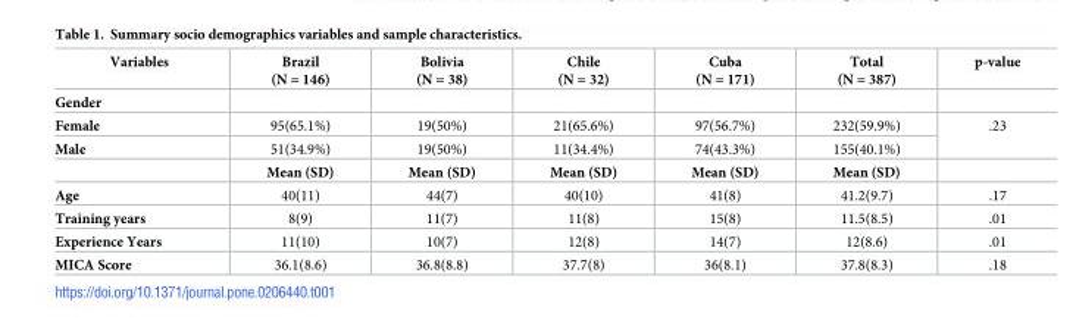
<table><thead><tr><td>Variables</td><td>Brazil (N = 146)</td><td>Bolivia (N = 38)</td><td>Chile (N = 32)</td><td>Cuba (N = 171)</td><td>Total (N = 387)</td><td>p-value</td></tr></thead><tbody><tr><td colspan="7">Gender</td></tr><tr><td>Female</td><td>95(65.1%)</td><td>19(50%)</td><td>21(65.6%)</td><td>97(56.7%)</td><td>232(59.9%)</td><td rowspan="2">.23</td></tr><tr><td rowspan="2">Male</td><td>51(34.9%)</td><td>19(50%)</td><td>11(34.4%)</td><td>74(43.3%)</td><td>155(40.1%)</td></tr><tr><td>Mean (SD)</td><td>Mean (SD)</td><td>Mean (SD)</td><td>Mean (SD)</td><td>Mean (SD)</td><td></td></tr><tr><td>Age</td><td>40(11)</td><td>44(7)</td><td>40(10)</td><td>41(8)</td><td>41.2(9.7)</td><td>.17</td></tr><tr><td>Training years</td><td>8(9)</td><td>11(7)</td><td>11(8)</td><td>15(8)</td><td>11.5(8.5)</td><td>.01</td></tr><tr><td>Experience Years</td><td>11(10)</td><td>10(7)</td><td>12(8)</td><td>14(7)</td><td>12(8.6)</td><td>.01</td></tr><tr><td>MICA Score</td><td>36.1(8.6)</td><td>36.8(8.8)</td><td>37.7(8)</td><td>36(8.1)</td><td>37.8(8.3)</td><td>.18</td></tr></tbody></table>